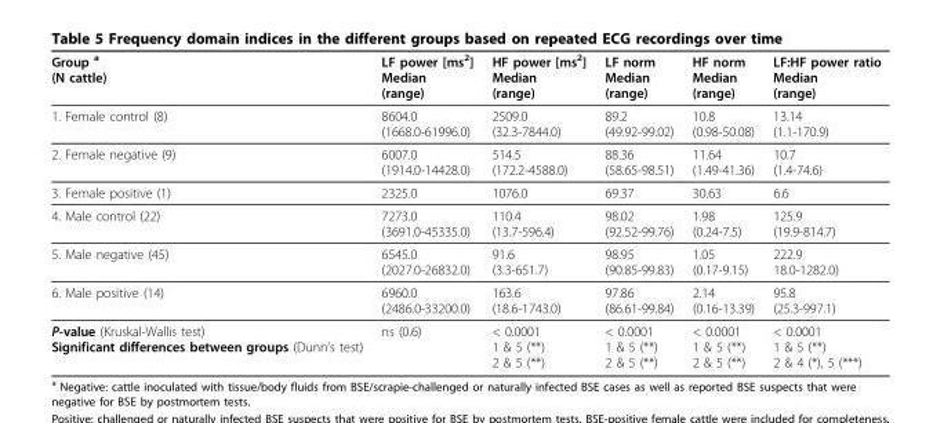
<table><thead><tr><td>Group <sup>a</sup> (N cattle)</td><td>LF power [ms<sup>2</sup>] Median (range)</td><td>HF power [ms<sup>2</sup>] Median (range)</td><td>LF norm Median (range)</td><td>HF norm Median (range)</td><td>LF:HF power ratio Median (range)</td></tr></thead><tbody><tr><td>1. Female control (8)</td><td>8604.0 (1668.0-61996.0)</td><td>2509.0 (32.3-7844.0)</td><td>89.2 (49.92-99.02)</td><td>10.8 (0.98-50.08)</td><td>13.14 (1.1-170.9)</td></tr><tr><td>2. Female negative (9)</td><td>6007.0 (1914.0-14428.0)</td><td>514.5 (172.2-4588.0)</td><td>88.36 (58.65-98.51)</td><td>11.64 (1.49-41.36)</td><td>10.7 (1.4-74.6)</td></tr><tr><td>3. Female positive (1)</td><td>2325.0</td><td>1076.0</td><td>69.37</td><td>30.63</td><td>6.6</td></tr><tr><td>4. Male control (22)</td><td>7273.0 (3691.0-45335.0)</td><td>110.4 (13.7-596.4)</td><td>98.02 (92.52-99.76)</td><td>1.98 (0.24-7.5)</td><td>125.9 (19.9-814.7)</td></tr><tr><td>5. Male negative (45)</td><td>6545.0 (2027.0-26832.0)</td><td>91.6 (3.3-651.7)</td><td>98.95 (90.85-99.83)</td><td>1.05 (0.17-9.15)</td><td>222.9 18.0-1282.0)</td></tr><tr><td>6. Male positive (14)</td><td>6960.0 (2486.0-33200.0)</td><td>163.6 (18.6-1743.0)</td><td>97.86 (86.61-99.84)</td><td>2.14 (0.16-13.39)</td><td>95.8 (25.3-997.1)</td></tr><tr><td>P-value (Kruskal-Wallis test) Significant differences between groups (Dunn’s test)</td><td>ns (0.6)</td><td>&lt; 0.0001 1 &amp; 5 (**) 2 &amp; 5 (**)</td><td>&lt; 0.0001 1 &amp; 5 (**) 2 &amp; 5 (**)</td><td>&lt; 0.0001 1 &amp; 5 (**) 2 &amp; 5 (**)</td><td>&lt; 0.0001 1 &amp; 5 (**) 2 &amp; 4 (*), 5 (***)</td></tr></tbody></table>